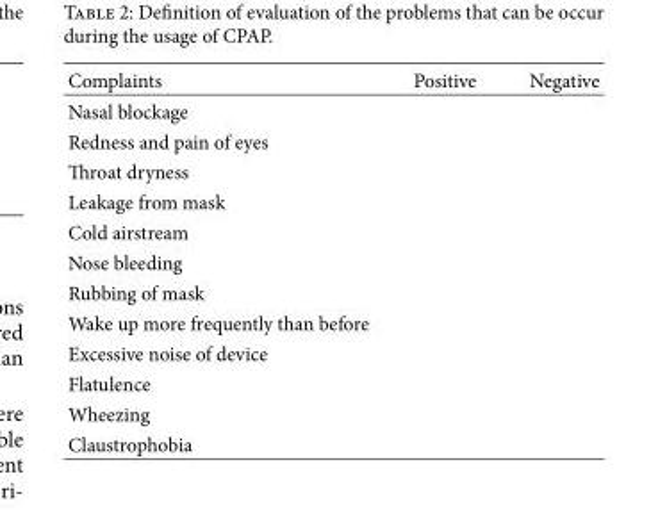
<table><thead><tr><td>Complaints</td><td>Positive</td><td>Negative</td></tr></thead><tbody><tr><td colspan="3">Nasal blockage</td></tr><tr><td colspan="3">Redness and pain of eyes</td></tr><tr><td colspan="3">Throat dryness</td></tr><tr><td colspan="3">Leakage from mask</td></tr><tr><td colspan="3">Cold airstream</td></tr><tr><td colspan="3">Nose bleeding</td></tr><tr><td colspan="3">Rubbing of mask</td></tr><tr><td colspan="3">Wake up more frequently than before</td></tr><tr><td colspan="3">Excessive noise of device</td></tr><tr><td colspan="3">Flatulence</td></tr><tr><td colspan="3">Wheezing</td></tr><tr><td>Claustrophobia</td><td></td><td></td></tr></tbody></table>